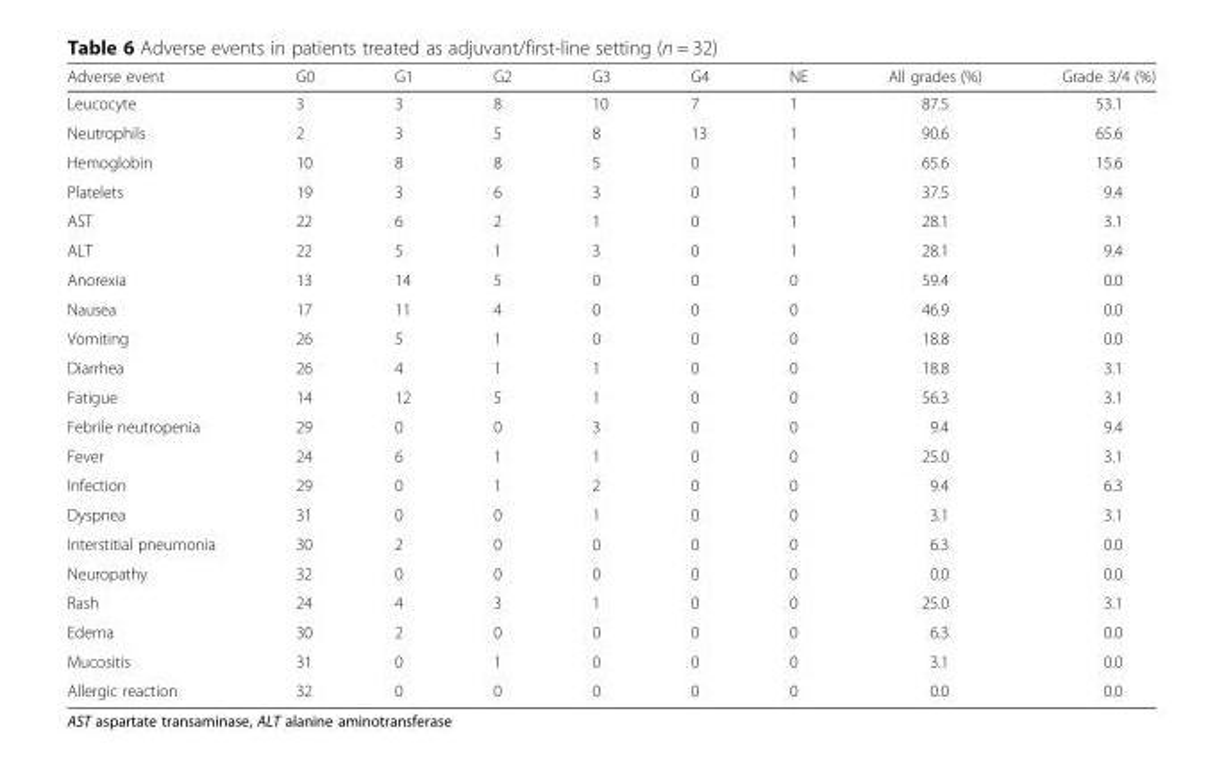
<table><thead><tr><td>Adverse event</td><td>G0</td><td>G1</td><td>G2</td><td>G3</td><td>G4</td><td>NE</td><td>All grades (%)</td><td>Grade 3/4 (%)</td></tr></thead><tbody><tr><td>Leucocyte</td><td>3</td><td>3</td><td>8</td><td>10</td><td>7</td><td>1</td><td>87.5</td><td>53.1</td></tr><tr><td>Neutrophils</td><td>2</td><td>3</td><td>5</td><td>8</td><td>13</td><td>1</td><td>90.6</td><td>65.6</td></tr><tr><td>Hemoglobin</td><td>10</td><td>8</td><td>8</td><td>5</td><td>0</td><td>1</td><td>65.6</td><td>15.6</td></tr><tr><td>Platelets</td><td>19</td><td>3</td><td>6</td><td>3</td><td>0</td><td>1</td><td>37.5</td><td>9.4</td></tr><tr><td>AST</td><td>22</td><td>6</td><td>2</td><td>1</td><td>0</td><td>1</td><td>28.1</td><td>3.1</td></tr><tr><td>ALT</td><td>22</td><td>5</td><td>1</td><td>3</td><td>0</td><td>1</td><td>28.1</td><td>9.4</td></tr><tr><td>Anorexia</td><td>13</td><td>14</td><td>5</td><td>0</td><td>0</td><td>0</td><td>59.4</td><td>0.0</td></tr><tr><td>Nausea</td><td>17</td><td>11</td><td>4</td><td>0</td><td>0</td><td>0</td><td>46.9</td><td>0.0</td></tr><tr><td>Vomiting</td><td>26</td><td>5</td><td>1</td><td>0</td><td>0</td><td>0</td><td>18.8</td><td>0.0</td></tr><tr><td>Diarrhea</td><td>26</td><td>4</td><td>1</td><td>1</td><td>0</td><td>0</td><td>18.8</td><td>3.1</td></tr><tr><td>Fatigue</td><td>14</td><td>12</td><td>5</td><td>1</td><td>0</td><td>0</td><td>56.3</td><td>3.1</td></tr><tr><td>Febrile neutropenia</td><td>29</td><td>0</td><td>0</td><td>3</td><td>0</td><td>0</td><td>9.4</td><td>9.4</td></tr><tr><td>Fever</td><td>24</td><td>6</td><td>1</td><td>1</td><td>0</td><td>0</td><td>25.0</td><td>3.1</td></tr><tr><td>Infection</td><td>29</td><td>0</td><td>1</td><td>2</td><td>0</td><td>0</td><td>9.4</td><td>6.3</td></tr><tr><td>Dyspnea</td><td>31</td><td>0</td><td>0</td><td>1</td><td>0</td><td>0</td><td>3.1</td><td>3.1</td></tr><tr><td>Interstitial pneumonia</td><td>30</td><td>2</td><td>0</td><td>0</td><td>0</td><td>0</td><td>6.3</td><td>0.0</td></tr><tr><td>Neuropathy</td><td>32</td><td>0</td><td>0</td><td>0</td><td>0</td><td>0</td><td>0.0</td><td>0.0</td></tr><tr><td>Rash</td><td>24</td><td>4</td><td>3</td><td>1</td><td>0</td><td>0</td><td>25.0</td><td>3.1</td></tr><tr><td>Edema</td><td>30</td><td>2</td><td>0</td><td>0</td><td>0</td><td>0</td><td>6.3</td><td>0.0</td></tr><tr><td>Mucositis</td><td>31</td><td>0</td><td>1</td><td>0</td><td>0</td><td>0</td><td>3.1</td><td>0.0</td></tr><tr><td>Allergic reaction</td><td>32</td><td>0</td><td>0</td><td>0</td><td>0</td><td>0</td><td>0.0</td><td>0.0</td></tr></tbody></table>